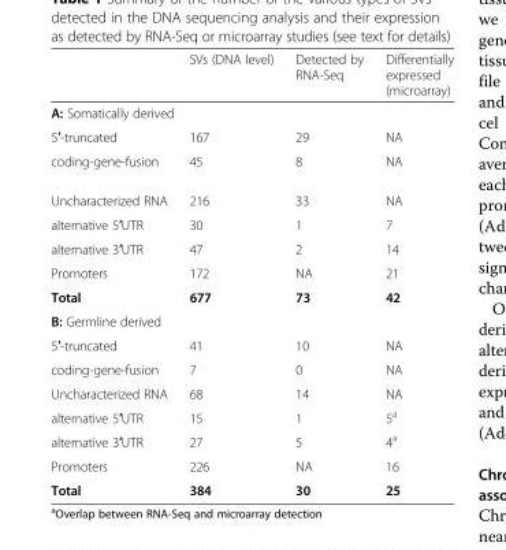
<table><thead><tr><td></td><td>SVs (DNA level)</td><td>Detected by RNA-Seq</td><td>Differentially expressed (microarray)</td></tr></thead><tbody><tr><td colspan="4">A: Somatically derived</td></tr><tr><td>5′-truncated</td><td>167</td><td>29</td><td>NA</td></tr><tr><td>coding-gene-fusion</td><td>45</td><td>8</td><td>NA</td></tr><tr><td>Uncharacterized RNA</td><td>216</td><td>33</td><td>NA</td></tr><tr><td>alternative 5′UTR</td><td>30</td><td>1</td><td>7</td></tr><tr><td>alternative 3′UTR</td><td>47</td><td>2</td><td>14</td></tr><tr><td>Promoters</td><td>172</td><td>NA</td><td>21</td></tr><tr><td>Total</td><td>677</td><td>73</td><td>42</td></tr><tr><td colspan="4">B: Germline derived</td></tr><tr><td>5′-truncated</td><td>41</td><td>10</td><td>NA</td></tr><tr><td>coding-gene-fusion</td><td>7</td><td>0</td><td>NA</td></tr><tr><td>Uncharacterized RNA</td><td>68</td><td>14</td><td>NA</td></tr><tr><td>alternative 5′UTR</td><td>15</td><td>1</td><td>5<sup>a</sup></td></tr><tr><td>alternative 3′UTR</td><td>27</td><td>5</td><td>4<sup>a</sup></td></tr><tr><td>Promoters</td><td>226</td><td>NA</td><td>16</td></tr><tr><td>Total</td><td>384</td><td>30</td><td>25</td></tr></tbody></table>